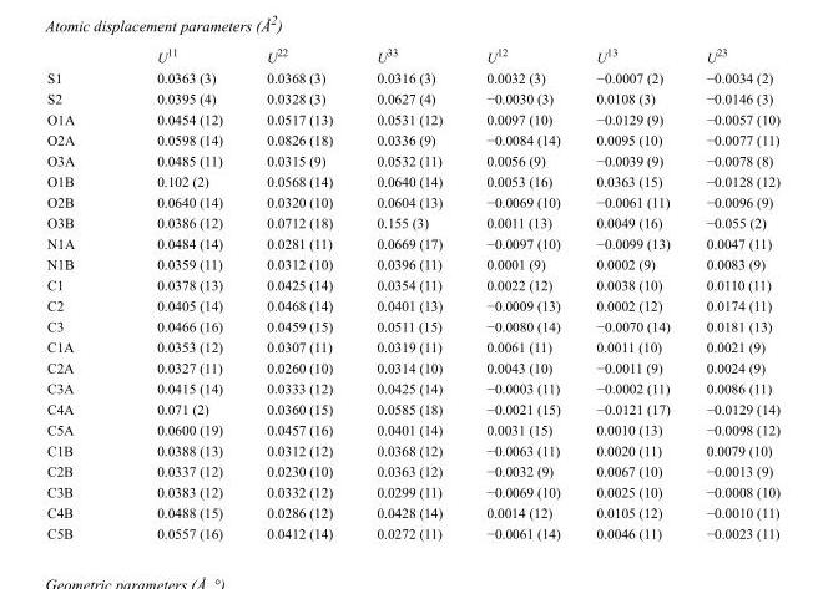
<table><thead><tr><td></td><td>U<sup>11</sup></td><td>U<sup>22</sup></td><td>U<sup>33</sup></td><td>U<sup>12</sup></td><td>U<sup>13</sup></td><td>U<sup>23</sup></td></tr></thead><tbody><tr><td>S1</td><td>0.0363 (3)</td><td>0.0368 (3)</td><td>0.0316 (3)</td><td>0.0032 (3)</td><td>−0.0007 (2)</td><td>−0.0034 (2)</td></tr><tr><td>S2</td><td>0.0395 (4)</td><td>0.0328 (3)</td><td>0.0627 (4)</td><td>−0.0030 (3)</td><td>0.0108 (3)</td><td>−0.0146 (3)</td></tr><tr><td>O1A</td><td>0.0454 (12)</td><td>0.0517 (13)</td><td>0.0531 (12)</td><td>0.0097 (10)</td><td>−0.0129 (9)</td><td>−0.0057 (10)</td></tr><tr><td>O2A</td><td>0.0598 (14)</td><td>0.0826 (18)</td><td>0.0336 (9)</td><td>−0.0084 (14)</td><td>0.0095 (10)</td><td>−0.0077 (11)</td></tr><tr><td>O3A</td><td>0.0485 (11)</td><td>0.0315 (9)</td><td>0.0532 (11)</td><td>0.0056 (9)</td><td>−0.0039 (9)</td><td>−0.0078 (8)</td></tr><tr><td>O1B</td><td>0.102 (2)</td><td>0.0568 (14)</td><td>0.0640 (14)</td><td>0.0053 (16)</td><td>0.0363 (15)</td><td>−0.0128 (12)</td></tr><tr><td>O2B</td><td>0.0640 (14)</td><td>0.0320 (10)</td><td>0.0604 (13)</td><td>−0.0069 (10)</td><td>−0.0061 (11)</td><td>−0.0096 (9)</td></tr><tr><td>O3B</td><td>0.0386 (12)</td><td>0.0712 (18)</td><td>0.155 (3)</td><td>0.0011 (13)</td><td>0.0049 (16)</td><td>−0.055 (2)</td></tr><tr><td>N1A</td><td>0.0484 (14)</td><td>0.0281 (11)</td><td>0.0669 (17)</td><td>−0.0097 (10)</td><td>−0.0099 (13)</td><td>0.0047 (11)</td></tr><tr><td>N1B</td><td>0.0359 (11)</td><td>0.0312 (10)</td><td>0.0396 (11)</td><td>0.0001 (9)</td><td>0.0002 (9)</td><td>0.0083 (9)</td></tr><tr><td>C1</td><td>0.0378 (13)</td><td>0.0425 (14)</td><td>0.0354 (11)</td><td>0.0022 (12)</td><td>0.0038 (10)</td><td>0.0110 (11)</td></tr><tr><td>C2</td><td>0.0405 (14)</td><td>0.0468 (14)</td><td>0.0401 (13)</td><td>−0.0009 (13)</td><td>0.0002 (12)</td><td>0.0174 (11)</td></tr><tr><td>C3</td><td>0.0466 (16)</td><td>0.0459 (15)</td><td>0.0511 (15)</td><td>−0.0080 (14)</td><td>−0.0070 (14)</td><td>0.0181 (13)</td></tr><tr><td>C1A</td><td>0.0353 (12)</td><td>0.0307 (11)</td><td>0.0319 (11)</td><td>0.0061 (11)</td><td>0.0011 (10)</td><td>0.0021 (9)</td></tr><tr><td>C2A</td><td>0.0327 (11)</td><td>0.0260 (10)</td><td>0.0314 (10)</td><td>0.0043 (10)</td><td>−0.0011 (9)</td><td>0.0024 (9)</td></tr><tr><td>C3A</td><td>0.0415 (14)</td><td>0.0333 (12)</td><td>0.0425 (14)</td><td>−0.0003 (11)</td><td>−0.0002 (11)</td><td>0.0086 (11)</td></tr><tr><td>C4A</td><td>0.071 (2)</td><td>0.0360 (15)</td><td>0.0585 (18)</td><td>−0.0021 (15)</td><td>−0.0121 (17)</td><td>−0.0129 (14)</td></tr><tr><td>C5A</td><td>0.0600 (19)</td><td>0.0457 (16)</td><td>0.0401 (14)</td><td>0.0031 (15)</td><td>0.0010 (13)</td><td>−0.0098 (12)</td></tr><tr><td>C1B</td><td>0.0388 (13)</td><td>0.0312 (12)</td><td>0.0368 (12)</td><td>−0.0063 (11)</td><td>0.0020 (11)</td><td>0.0079 (10)</td></tr><tr><td>C2B</td><td>0.0337 (12)</td><td>0.0230 (10)</td><td>0.0363 (12)</td><td>−0.0032 (9)</td><td>0.0067 (10)</td><td>−0.0013 (9)</td></tr><tr><td>C3B</td><td>0.0383 (12)</td><td>0.0332 (12)</td><td>0.0299 (11)</td><td>−0.0069 (10)</td><td>0.0025 (10)</td><td>−0.0008 (10)</td></tr><tr><td>C4B</td><td>0.0488 (15)</td><td>0.0286 (12)</td><td>0.0428 (14)</td><td>0.0014 (12)</td><td>0.0105 (12)</td><td>−0.0010 (11)</td></tr><tr><td>C5B</td><td>0.0557 (16)</td><td>0.0412 (14)</td><td>0.0272 (11)</td><td>−0.0061 (14)</td><td>0.0046 (11)</td><td>−0.0023 (11)</td></tr></tbody></table>